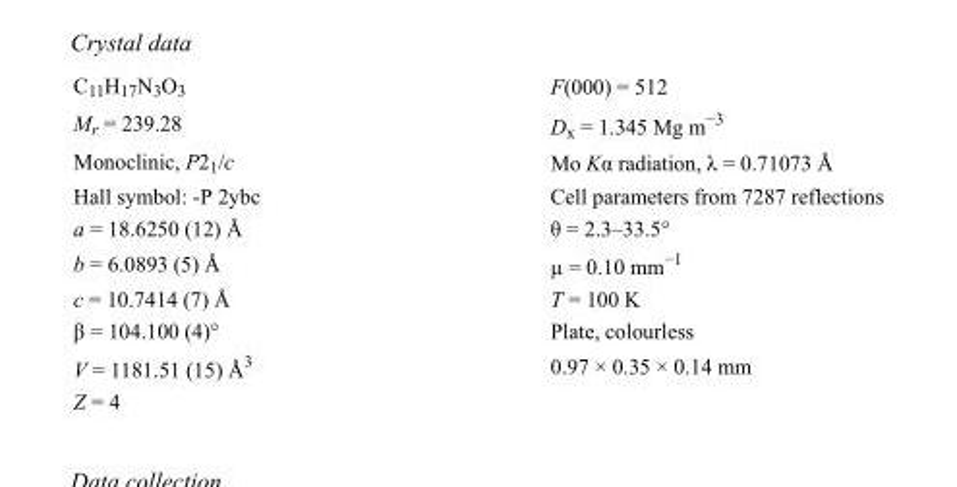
<table><tbody><tr><td>C<sub>11</sub>H<sub>17</sub>N<sub>3</sub>O<sub>3</sub></td><td>F(000) = 512</td></tr><tr><td>M<sub>r</sub> = 239.28</td><td>D<sub>x</sub> = 1.345 Mg m<sup>−3</sup></td></tr><tr><td>Monoclinic, P2<sub>1</sub>/c</td><td>Mo Kα radiation, λ = 0.71073 Å</td></tr><tr><td>Hall symbol: -P 2ybc</td><td>Cell parameters from 7287 reflections</td></tr><tr><td>a = 18.6250 (12) Å</td><td>θ = 2.3–33.5°</td></tr><tr><td>b = 6.0893 (5) Å</td><td>µ = 0.10 mm<sup>−1</sup></td></tr><tr><td>c = 10.7414 (7) Å</td><td>T = 100 K</td></tr><tr><td>β = 104.100 (4)°</td><td>Plate, colourless</td></tr><tr><td>V = 1181.51 (15) Å<sup>3</sup></td><td>0.97 × 0.35 × 0.14 mm</td></tr><tr><td>Z = 4</td><td></td></tr></tbody></table>